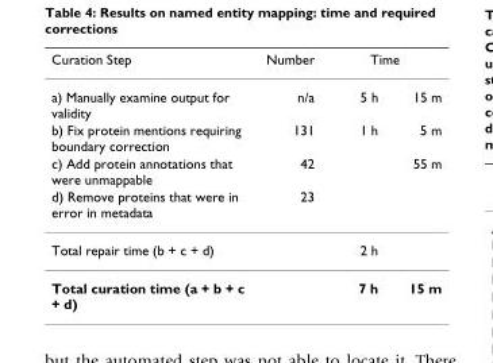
<table><thead><tr><td rowspan="2">Curation Step a) Manually examine output for validity</td><td rowspan="2">Number n/a</td><td colspan="2">Time</td></tr><tr><td>5 h</td><td>15 m</td></tr></thead><tbody><tr><td>b) Fix protein mentions requiring boundary correction</td><td>131</td><td>1 h</td><td>5 m</td></tr><tr><td>c) Add protein annotations that were unmappable</td><td>42</td><td></td><td>55 m</td></tr><tr><td>d) Remove proteins that were in error in metadata</td><td>23</td><td></td><td></td></tr><tr><td>Total repair time (b + c + d)</td><td></td><td>2 h</td><td></td></tr><tr><td>Total curation time (a + b + c + d)</td><td></td><td>7 h</td><td>15 m</td></tr></tbody></table>